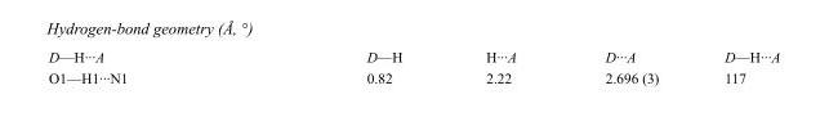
<table><tbody><tr><td>D—H···A</td><td>D—H</td><td>H···A</td><td>D···A</td><td>D—H···A</td></tr><tr><td>O1—H1···N1</td><td>0.82</td><td>2.22</td><td>2.696 (3)</td><td>117</td></tr></tbody></table>